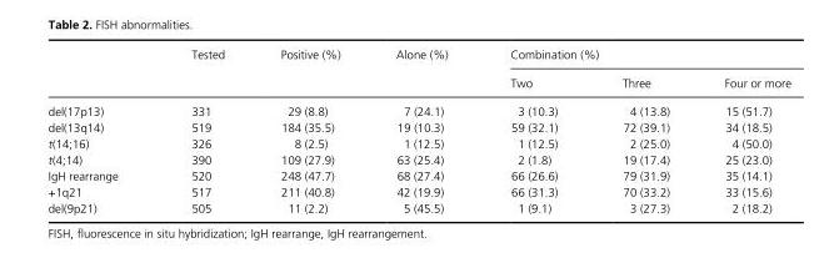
<table><thead><tr><td rowspan="2"></td><td rowspan="2">Tested</td><td rowspan="2">Positive (%)</td><td rowspan="2">Alone (%)</td><td colspan="3">Combination (%)</td></tr><tr><td>Two</td><td>Three</td><td>Four or more</td></tr></thead><tbody><tr><td>del(17p13)</td><td>331</td><td>29 (8.8)</td><td>7 (24.1)</td><td>3 (10.3)</td><td>4 (13.8)</td><td>15 (51.7)</td></tr><tr><td>del(13q14)</td><td>519</td><td>184 (35.5)</td><td>19 (10.3)</td><td>59 (32.1)</td><td>72 (39.1)</td><td>34 (18.5)</td></tr><tr><td>t(14;16)</td><td>326</td><td>8 (2.5)</td><td>1 (12.5)</td><td>1 (12.5)</td><td>2 (25.0)</td><td>4 (50.0)</td></tr><tr><td>t(4;14)</td><td>390</td><td>109 (27.9)</td><td>63 (25.4)</td><td>2 (1.8)</td><td>19 (17.4)</td><td>25 (23.0)</td></tr><tr><td>IgH rearrange</td><td>520</td><td>248 (47.7)</td><td>68 (27.4)</td><td>66 (26.6)</td><td>79 (31.9)</td><td>35 (14.1)</td></tr><tr><td>+1q21</td><td>517</td><td>211 (40.8)</td><td>42 (19.9)</td><td>66 (31.3)</td><td>70 (33.2)</td><td>33 (15.6)</td></tr><tr><td>del(9p21)</td><td>505</td><td>11 (2.2)</td><td>5 (45.5)</td><td>1 (9.1)</td><td>3 (27.3)</td><td>2 (18.2)</td></tr></tbody></table>